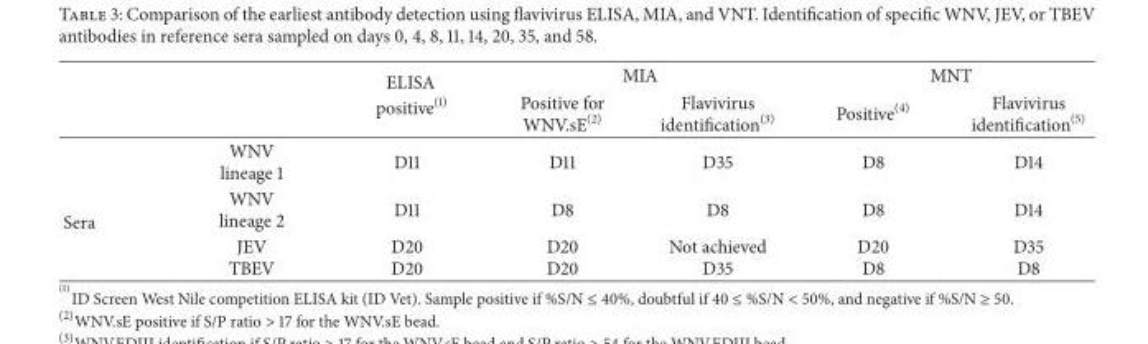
<table><thead><tr><td rowspan="2"></td><td rowspan="2"></td><td rowspan="2">ELISA positive<sup>(1)</sup></td><td colspan="2">MIA</td><td colspan="2">MNT</td></tr><tr><td>Positive for WNV.sE<sup>(2)</sup></td><td>Flavivirus identification<sup>(3)</sup></td><td>Positive<sup>(4)</sup></td><td>Flavivirus identification<sup>(5)</sup></td></tr></thead><tbody><tr><td rowspan="3">Sera</td><td>WNV lineage 1</td><td>D11</td><td>D11</td><td>D35</td><td>D8</td><td>D14</td></tr><tr><td>WNV lineage 2</td><td>D11</td><td>D8</td><td>D8</td><td>D8</td><td>D14</td></tr><tr><td>JEV TBEV</td><td>D20 D20</td><td>D20 D20</td><td>Not achieved D35</td><td>D20 D8</td><td>D35 D8</td></tr></tbody></table>